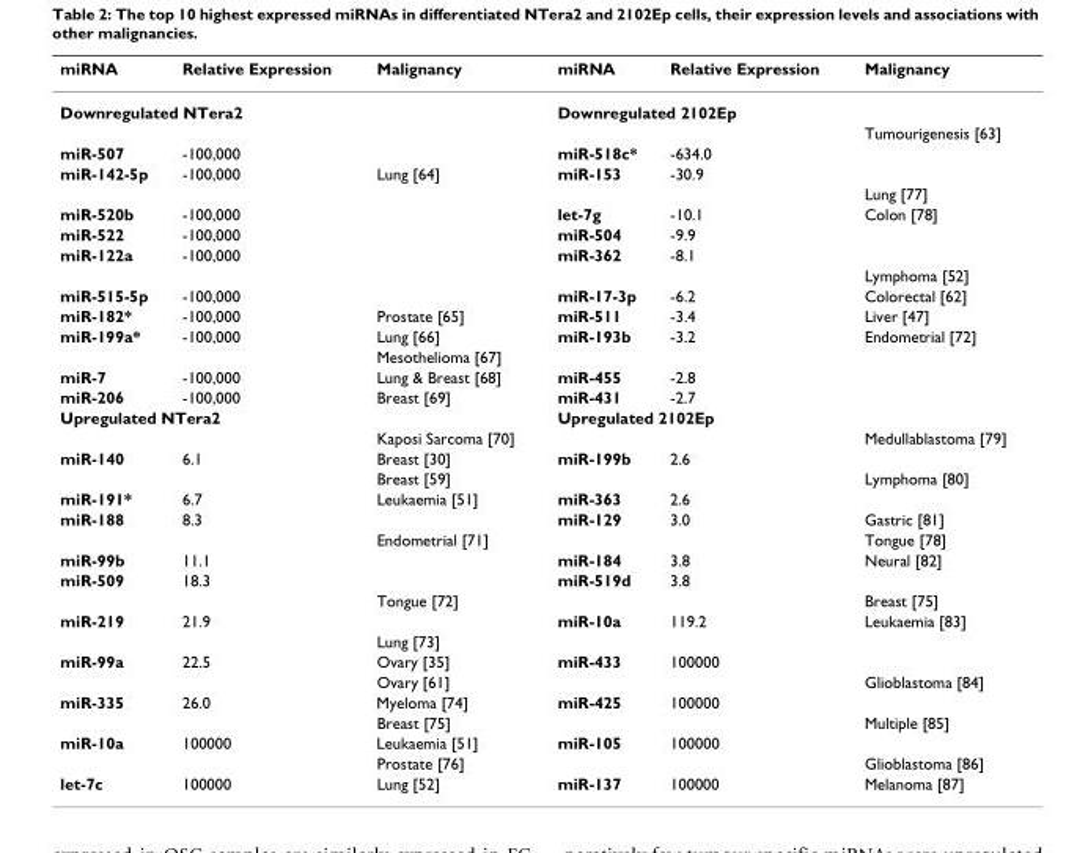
<table><thead><tr><td>miRNA</td><td>Relative Expression</td><td>Malignancy</td><td>miRNA</td><td>Relative Expression</td><td>Malignancy</td></tr></thead><tbody><tr><td colspan="3">Downregulated NTera2</td><td colspan="3">Downregulated 2102Ep</td></tr><tr><td></td><td></td><td></td><td></td><td></td><td>Tumourigenesis [63]</td></tr><tr><td>miR-507</td><td>-100,000</td><td></td><td>miR-518c*</td><td>-634.0</td><td></td></tr><tr><td rowspan="2">miR-142-5p</td><td>-100,000</td><td>Lung [64]</td><td>miR-153</td><td>-30.9</td><td></td></tr><tr><td></td><td></td><td></td><td></td><td>Lung [77]</td></tr><tr><td>miR-520b</td><td>-100,000</td><td></td><td>let-7g</td><td>-10.1</td><td>Colon [78]</td></tr><tr><td>miR-522</td><td>-100,000</td><td></td><td>miR-504</td><td>-9.9</td><td></td></tr><tr><td rowspan="2">miR-122a</td><td>-100,000</td><td></td><td>miR-362</td><td>-8.1</td><td></td></tr><tr><td></td><td></td><td></td><td></td><td>Lymphoma [52]</td></tr><tr><td>miR-515-5p</td><td>-100,000</td><td></td><td>miR-17-3p</td><td>-6.2</td><td>Colorectal [62]</td></tr><tr><td>miR-182*</td><td>-100,000</td><td>Prostate [65]</td><td>miR-511</td><td>-3.4</td><td>Liver [47]</td></tr><tr><td rowspan="2">miR-199a*</td><td>-100,000</td><td>Lung [66]</td><td>miR-193b</td><td>-3.2</td><td>Endometrial [72]</td></tr><tr><td></td><td>Mesothelioma [67]</td><td></td><td></td><td></td></tr><tr><td>miR-7</td><td>-100,000</td><td>Lung &amp; Breast [68]</td><td>miR-455</td><td>-2.8</td><td></td></tr><tr><td>miR-206</td><td>-100,000</td><td>Breast [69]</td><td>miR-431</td><td>-2.7</td><td></td></tr><tr><td colspan="3">Upregulated NTera2</td><td colspan="3">Upregulated 2102Ep</td></tr><tr><td></td><td></td><td>Kaposi Sarcoma [70]</td><td></td><td></td><td>Medullablastoma [79]</td></tr><tr><td rowspan="2">miR-140</td><td>6.1</td><td>Breast [30]</td><td>miR-199b</td><td>2.6</td><td></td></tr><tr><td></td><td>Breast [59]</td><td></td><td></td><td>Lymphoma [80]</td></tr><tr><td>miR-191*</td><td>6.7</td><td>Leukaemia [51]</td><td>miR-363</td><td>2.6</td><td></td></tr><tr><td rowspan="2">miR-188</td><td>8.3</td><td></td><td>miR-129</td><td>3.0</td><td>Gastric [81]</td></tr><tr><td></td><td>Endometrial [71]</td><td></td><td></td><td>Tongue [78]</td></tr><tr><td>miR-99b</td><td>11.1</td><td></td><td>miR-184</td><td>3.8</td><td>Neural [82]</td></tr><tr><td rowspan="2">miR-509</td><td>18.3</td><td></td><td>miR-519d</td><td>3.8</td><td></td></tr><tr><td></td><td>Tongue [72]</td><td></td><td></td><td>Breast [75]</td></tr><tr><td rowspan="2">miR-219</td><td>21.9</td><td></td><td>miR-10a</td><td>119.2</td><td>Leukaemia [83]</td></tr><tr><td></td><td>Lung [73]</td><td></td><td></td><td></td></tr><tr><td rowspan="2">miR-99a</td><td>22.5</td><td>Ovary [35]</td><td>miR-433</td><td>100000</td><td></td></tr><tr><td></td><td>Ovary [61]</td><td></td><td></td><td>Glioblastoma [84]</td></tr><tr><td rowspan="2">miR-335</td><td>26.0</td><td>Myeloma [74]</td><td>miR-425</td><td>100000</td><td></td></tr><tr><td></td><td>Breast [75]</td><td></td><td></td><td>Multiple [85]</td></tr><tr><td rowspan="2">miR-10a</td><td>100000</td><td>Leukaemia [51]</td><td>miR-105</td><td>100000</td><td></td></tr><tr><td></td><td>Prostate [76]</td><td></td><td></td><td>Glioblastoma [86]</td></tr><tr><td>let-7c</td><td>100000</td><td>Lung [52]</td><td>miR-137</td><td>100000</td><td>Melanoma [87]</td></tr></tbody></table>